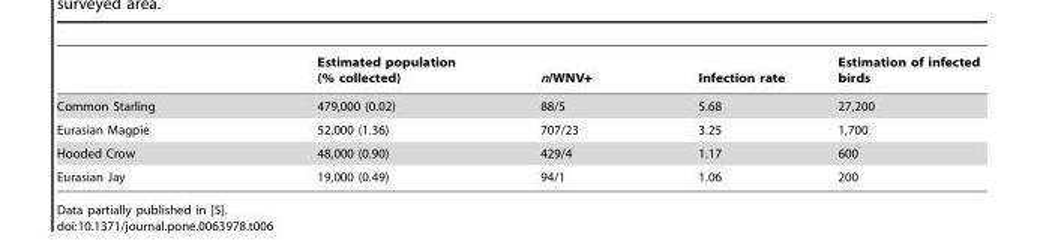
<table><thead><tr><td></td><td>Estimated population (% collected)</td><td>n/WNV+</td><td>Infection rate</td><td>Estimation of infected birds</td></tr></thead><tbody><tr><td>Common Starling</td><td>479,000 (0.02)</td><td>88/5</td><td>5.68</td><td>27,200</td></tr><tr><td>Eurasian Magpie</td><td>52,000 (1.36)</td><td>707/23</td><td>3.25</td><td>1,700</td></tr><tr><td>Hooded Crow</td><td>48,000 (0.90)</td><td>429/4</td><td>1.17</td><td>600</td></tr><tr><td>Eurasian Jay</td><td>19,000 (0.49)</td><td>94/1</td><td>1.06</td><td>200</td></tr></tbody></table>